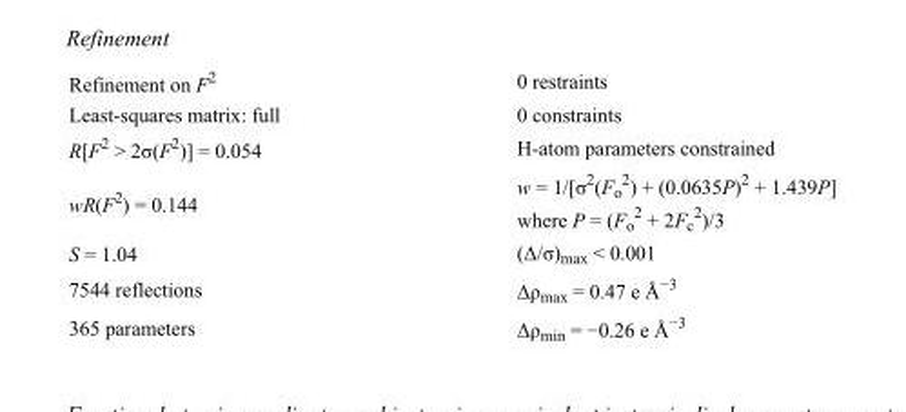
<table><tbody><tr><td>Refinement on F<sup>2</sup></td><td>0 restraints</td></tr><tr><td>Least-squares matrix: full</td><td>0 constraints</td></tr><tr><td>R[F<sup>2</sup> &gt; 2σ(F<sup>2</sup>)] = 0.054</td><td>H-atom parameters constrained</td></tr><tr><td>wR(F<sup>2</sup>) = 0.144</td><td>w = 1/[σ<sup>2</sup>(F<sub>o</sub> <sup>2</sup>) + (0.0635P)<sup>2</sup> + 1.439P] where P = (F<sub>o</sub> <sup>2</sup> + 2F<sub>c</sub> <sup>2</sup>)/3</td></tr><tr><td>S = 1.04</td><td>(Δ/σ)<sub>max</sub> &lt; 0.001</td></tr><tr><td>7544 reflections</td><td>Δρ<sub>max</sub> = 0.47 e Å<sup>−3</sup></td></tr><tr><td>365 parameters</td><td>Δρ<sub>min</sub> = −0.26 e Å<sup>−3</sup></td></tr></tbody></table>